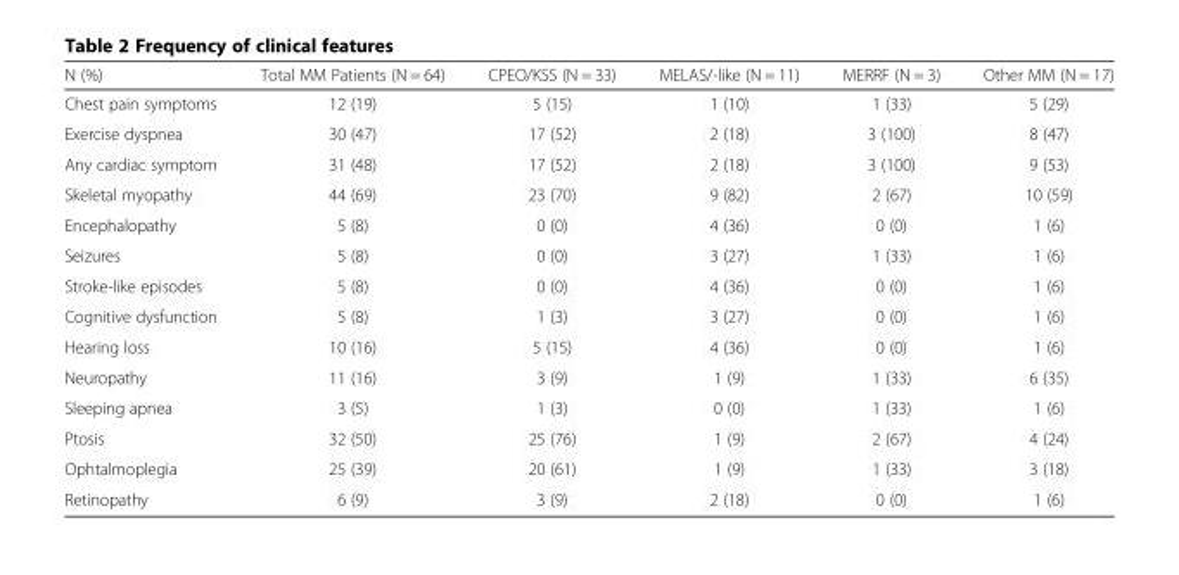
<table><thead><tr><td>N (%)</td><td>Total MM Patients (N = 64)</td><td>CPEO/KSS (N = 33)</td><td>MELAS/-like (N = 11)</td><td>MERRF (N = 3)</td><td>Other MM (N = 17)</td></tr></thead><tbody><tr><td>Chest pain symptoms</td><td>12 (19)</td><td>5 (15)</td><td>1 (10)</td><td>1 (33)</td><td>5 (29)</td></tr><tr><td>Exercise dyspnea</td><td>30 (47)</td><td>17 (52)</td><td>2 (18)</td><td>3 (100)</td><td>8 (47)</td></tr><tr><td>Any cardiac symptom</td><td>31 (48)</td><td>17 (52)</td><td>2 (18)</td><td>3 (100)</td><td>9 (53)</td></tr><tr><td>Skeletal myopathy</td><td>44 (69)</td><td>23 (70)</td><td>9 (82)</td><td>2 (67)</td><td>10 (59)</td></tr><tr><td>Encephalopathy</td><td>5 (8)</td><td>0 (0)</td><td>4 (36)</td><td>0 (0)</td><td>1 (6)</td></tr><tr><td>Seizures</td><td>5 (8)</td><td>0 (0)</td><td>3 (27)</td><td>1 (33)</td><td>1 (6)</td></tr><tr><td>Stroke-like episodes</td><td>5 (8)</td><td>0 (0)</td><td>4 (36)</td><td>0 (0)</td><td>1 (6)</td></tr><tr><td>Cognitive dysfunction</td><td>5 (8)</td><td>1 (3)</td><td>3 (27)</td><td>0 (0)</td><td>1 (6)</td></tr><tr><td>Hearing loss</td><td>10 (16)</td><td>5 (15)</td><td>4 (36)</td><td>0 (0)</td><td>1 (6)</td></tr><tr><td>Neuropathy</td><td>11 (16)</td><td>3 (9)</td><td>1 (9)</td><td>1 (33)</td><td>6 (35)</td></tr><tr><td>Sleeping apnea</td><td>3 (5)</td><td>1 (3)</td><td>0 (0)</td><td>1 (33)</td><td>1 (6)</td></tr><tr><td>Ptosis</td><td>32 (50)</td><td>25 (76)</td><td>1 (9)</td><td>2 (67)</td><td>4 (24)</td></tr><tr><td>Ophtalmoplegia</td><td>25 (39)</td><td>20 (61)</td><td>1 (9)</td><td>1 (33)</td><td>3 (18)</td></tr><tr><td>Retinopathy</td><td>6 (9)</td><td>3 (9)</td><td>2 (18)</td><td>0 (0)</td><td>1 (6)</td></tr></tbody></table>